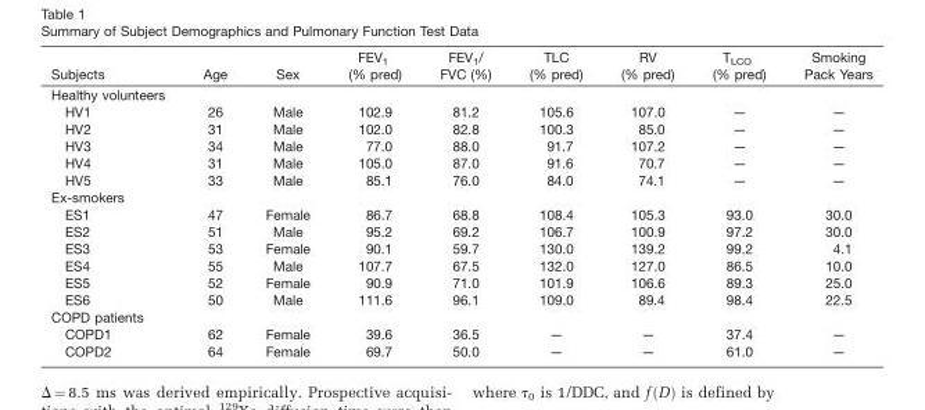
<table><thead><tr><td>Subjects</td><td>Age</td><td>Sex</td><td>FEV<sub>1</sub> (% pred)</td><td>FEV<sub>1</sub>/ FVC (%)</td><td>TLC (% pred)</td><td>RV (% pred)</td><td>T<sub>LCO</sub> (% pred)</td><td>Smoking Pack Years</td></tr></thead><tbody><tr><td colspan="9">Healthy volunteers</td></tr><tr><td>HV1</td><td>26</td><td>Male</td><td>102.9</td><td>81.2</td><td>105.6</td><td>107.0</td><td>—</td><td>—</td></tr><tr><td>HV2</td><td>31</td><td>Male</td><td>102.0</td><td>82.8</td><td>100.3</td><td>85.0</td><td>—</td><td>—</td></tr><tr><td>HV3</td><td>34</td><td>Male</td><td>77.0</td><td>88.0</td><td>91.7</td><td>107.2</td><td>—</td><td>—</td></tr><tr><td>HV4</td><td>31</td><td>Male</td><td>105.0</td><td>87.0</td><td>91.6</td><td>70.7</td><td>—</td><td>—</td></tr><tr><td>HV5</td><td>33</td><td>Male</td><td>85.1</td><td>76.0</td><td>84.0</td><td>74.1</td><td>—</td><td>—</td></tr><tr><td colspan="9">Ex-smokers</td></tr><tr><td>ES1</td><td>47</td><td>Female</td><td>86.7</td><td>68.8</td><td>108.4</td><td>105.3</td><td>93.0</td><td>30.0</td></tr><tr><td>ES2</td><td>51</td><td>Male</td><td>95.2</td><td>69.2</td><td>106.7</td><td>100.9</td><td>97.2</td><td>30.0</td></tr><tr><td>ES3</td><td>53</td><td>Female</td><td>90.1</td><td>59.7</td><td>130.0</td><td>139.2</td><td>99.2</td><td>4.1</td></tr><tr><td>ES4</td><td>55</td><td>Male</td><td>107.7</td><td>67.5</td><td>132.0</td><td>127.0</td><td>86.5</td><td>10.0</td></tr><tr><td>ES5</td><td>52</td><td>Female</td><td>90.9</td><td>71.0</td><td>101.9</td><td>106.6</td><td>89.3</td><td>25.0</td></tr><tr><td>ES6</td><td>50</td><td>Male</td><td>111.6</td><td>96.1</td><td>109.0</td><td>89.4</td><td>98.4</td><td>22.5</td></tr><tr><td colspan="9">COPD patients</td></tr><tr><td>COPD1</td><td>62</td><td>Female</td><td>39.6</td><td>36.5</td><td>—</td><td>—</td><td>37.4</td><td>—</td></tr><tr><td>COPD2</td><td>64</td><td>Female</td><td>69.7</td><td>50.0</td><td>—</td><td>—</td><td>61.0</td><td>—</td></tr></tbody></table>